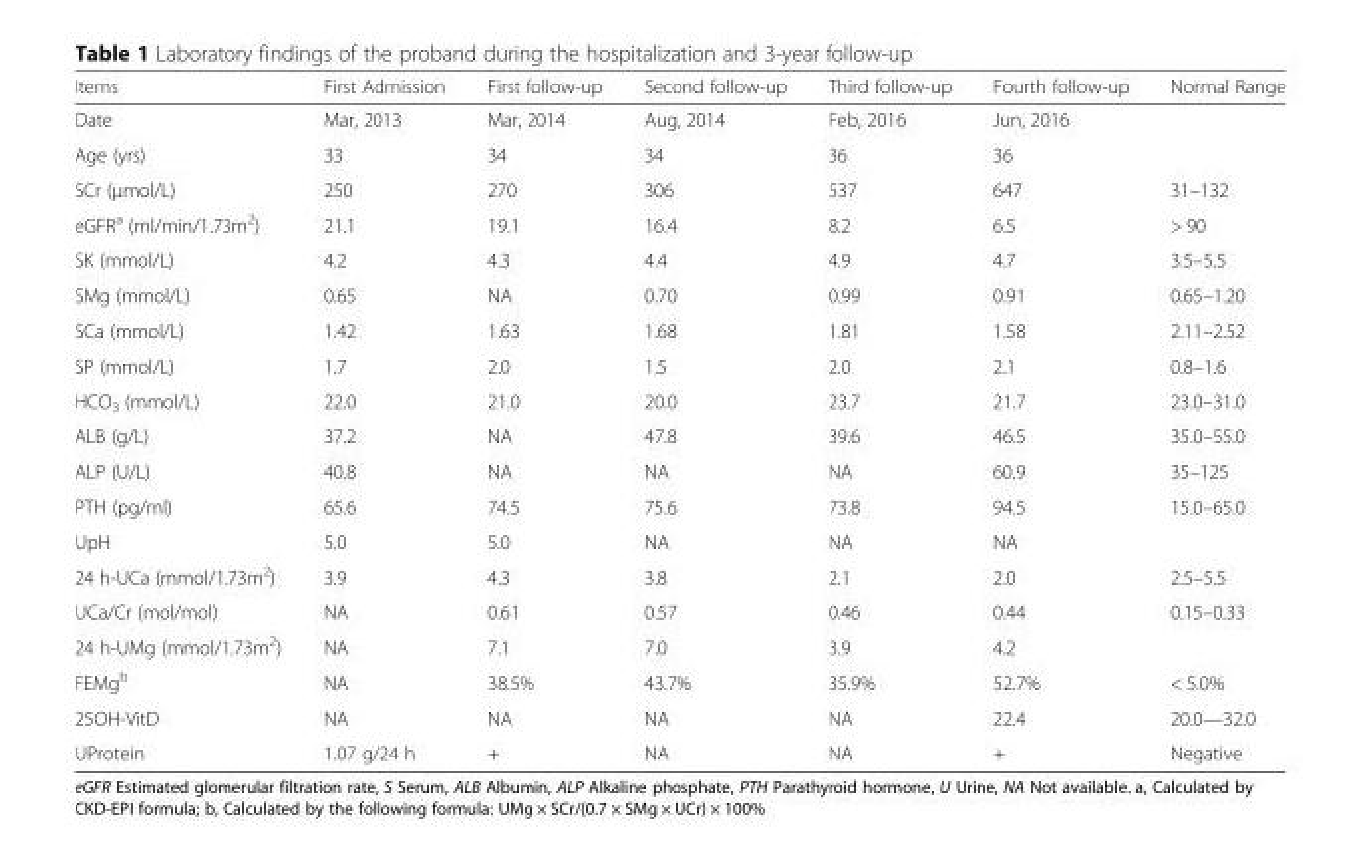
<table><thead><tr><td>Items</td><td>First Admission</td><td>First follow-up</td><td>Second follow-up</td><td>Third follow-up</td><td>Fourth follow-up</td><td>Normal Range</td></tr></thead><tbody><tr><td>Date</td><td>Mar, 2013</td><td>Mar, 2014</td><td>Aug, 2014</td><td>Feb, 2016</td><td>Jun, 2016</td><td></td></tr><tr><td>Age (yrs)</td><td>33</td><td>34</td><td>34</td><td>36</td><td>36</td><td></td></tr><tr><td>SCr (μmol/L)</td><td>250</td><td>270</td><td>306</td><td>537</td><td>647</td><td>31–132</td></tr><tr><td>eGFR<sup>a</sup> (ml/min/1.73m<sup>2</sup>)</td><td>21.1</td><td>19.1</td><td>16.4</td><td>8.2</td><td>6.5</td><td>&gt; 90</td></tr><tr><td>SK (mmol/L)</td><td>4.2</td><td>4.3</td><td>4.4</td><td>4.9</td><td>4.7</td><td>3.5–5.5</td></tr><tr><td>SMg (mmol/L)</td><td>0.65</td><td>NA</td><td>0.70</td><td>0.99</td><td>0.91</td><td>0.65–1.20</td></tr><tr><td>SCa (mmol/L)</td><td>1.42</td><td>1.63</td><td>1.68</td><td>1.81</td><td>1.58</td><td>2.11–2.52</td></tr><tr><td>SP (mmol/L)</td><td>1.7</td><td>2.0</td><td>1.5</td><td>2.0</td><td>2.1</td><td>0.8–1.6</td></tr><tr><td>HCO<sub>3</sub> (mmol/L)</td><td>22.0</td><td>21.0</td><td>20.0</td><td>23.7</td><td>21.7</td><td>23.0–31.0</td></tr><tr><td>ALB (g/L)</td><td>37.2</td><td>NA</td><td>47.8</td><td>39.6</td><td>46.5</td><td>35.0–55.0</td></tr><tr><td>ALP (U/L)</td><td>40.8</td><td>NA</td><td>NA</td><td>NA</td><td>60.9</td><td>35–125</td></tr><tr><td>PTH (pg/ml)</td><td>65.6</td><td>74.5</td><td>75.6</td><td>73.8</td><td>94.5</td><td>15.0–65.0</td></tr><tr><td>UpH</td><td>5.0</td><td>5.0</td><td>NA</td><td>NA</td><td>NA</td><td></td></tr><tr><td>24 h-UCa (mmol/1.73m<sup>2</sup>)</td><td>3.9</td><td>4.3</td><td>3.8</td><td>2.1</td><td>2.0</td><td>2.5–5.5</td></tr><tr><td>UCa/Cr (mol/mol)</td><td>NA</td><td>0.61</td><td>0.57</td><td>0.46</td><td>0.44</td><td>0.15–0.33</td></tr><tr><td>24 h-UMg (mmol/1.73m<sup>2</sup>)</td><td>NA</td><td>7.1</td><td>7.0</td><td>3.9</td><td>4.2</td><td></td></tr><tr><td>FEMg<sup>b</sup></td><td>NA</td><td>38.5%</td><td>43.7%</td><td>35.9%</td><td>52.7%</td><td>&lt; 5.0%</td></tr><tr><td>25OH-VitD</td><td>NA</td><td>NA</td><td>NA</td><td>NA</td><td>22.4</td><td>20.0—32.0</td></tr><tr><td>UProtein</td><td>1.07 g/24 h</td><td>+</td><td>NA</td><td>NA</td><td>+</td><td>Negative</td></tr></tbody></table>